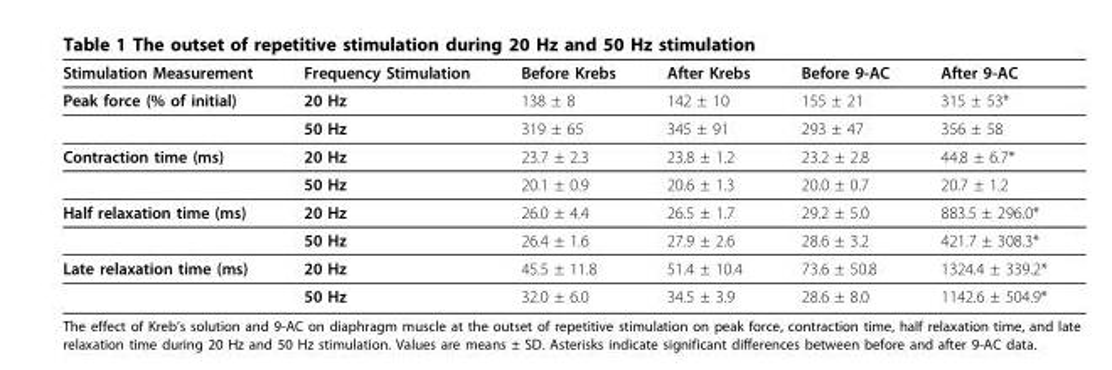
<table><thead><tr><td>Stimulation Measurement</td><td>Frequency Stimulation</td><td>Before Krebs</td><td>After Krebs</td><td>Before 9-AC</td><td>After 9-AC</td></tr></thead><tbody><tr><td rowspan="2">Peak force (% of initial)</td><td>20 Hz</td><td>138 ± 8</td><td>142 ± 10</td><td>155 ± 21</td><td>315 ± 53*</td></tr><tr><td>50 Hz</td><td>319 ± 65</td><td>345 ± 91</td><td>293 ± 47</td><td>356 ± 58</td></tr><tr><td rowspan="2">Contraction time (ms)</td><td>20 Hz</td><td>23.7 ± 2.3</td><td>23.8 ± 1.2</td><td>23.2 ± 2.8</td><td>44.8 ± 6.7*</td></tr><tr><td>50 Hz</td><td>20.1 ± 0.9</td><td>20.6 ± 1.3</td><td>20.0 ± 0.7</td><td>20.7 ± 1.2</td></tr><tr><td rowspan="2">Half relaxation time (ms)</td><td>20 Hz</td><td>26.0 ± 4.4</td><td>26.5 ± 1.7</td><td>29.2 ± 5.0</td><td>883.5 ± 296.0*</td></tr><tr><td>50 Hz</td><td>26.4 ± 1.6</td><td>27.9 ± 2.6</td><td>28.6 ± 3.2</td><td>421.7 ± 308.3*</td></tr><tr><td rowspan="2">Late relaxation time (ms)</td><td>20 Hz</td><td>45.5 ± 11.8</td><td>51.4 ± 10.4</td><td>73.6 ± 50.8</td><td>1324.4 ± 339.2*</td></tr><tr><td>50 Hz</td><td>32.0 ± 6.0</td><td>34.5 ± 3.9</td><td>28.6 ± 8.0</td><td>1142.6 ± 504.9*</td></tr></tbody></table>